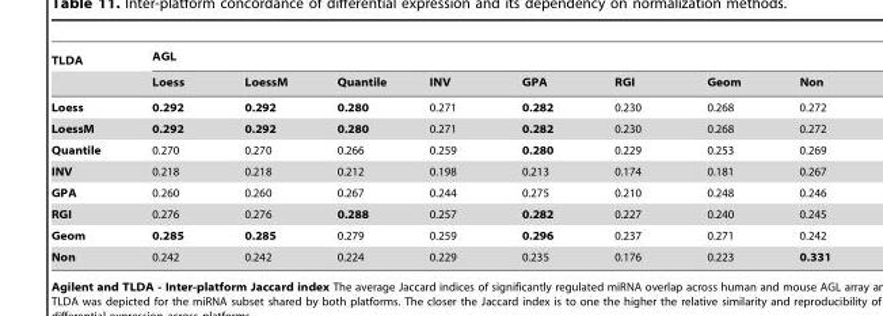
<table><thead><tr><td rowspan="2">TLDA</td><td colspan="8">AGL</td></tr><tr><td>Loess</td><td>LoessM</td><td>Quantile</td><td>INV</td><td>GPA</td><td>RGI</td><td>Geom</td><td>Non</td></tr></thead><tbody><tr><td>Loess</td><td>0.292</td><td>0.292</td><td>0.280</td><td>0.271</td><td>0.282</td><td>0.230</td><td>0.268</td><td>0.272</td></tr><tr><td>LoessM</td><td>0.292</td><td>0.292</td><td>0.280</td><td>0.271</td><td>0.282</td><td>0.230</td><td>0.268</td><td>0.272</td></tr><tr><td>Quantile</td><td>0.270</td><td>0.270</td><td>0.266</td><td>0.259</td><td>0.280</td><td>0.229</td><td>0.253</td><td>0.269</td></tr><tr><td>INV</td><td>0.218</td><td>0.218</td><td>0.212</td><td>0.198</td><td>0.213</td><td>0.174</td><td>0.181</td><td>0.267</td></tr><tr><td>GPA</td><td>0.260</td><td>0.260</td><td>0.267</td><td>0.244</td><td>0.275</td><td>0.210</td><td>0.248</td><td>0.246</td></tr><tr><td>RGI</td><td>0.276</td><td>0.276</td><td>0.288</td><td>0.257</td><td>0.282</td><td>0.227</td><td>0.240</td><td>0.245</td></tr><tr><td>Geom</td><td>0.285</td><td>0.285</td><td>0.279</td><td>0.259</td><td>0.296</td><td>0.237</td><td>0.271</td><td>0.242</td></tr><tr><td>Non</td><td>0.242</td><td>0.242</td><td>0.224</td><td>0.229</td><td>0.235</td><td>0.176</td><td>0.223</td><td>0.331</td></tr></tbody></table>